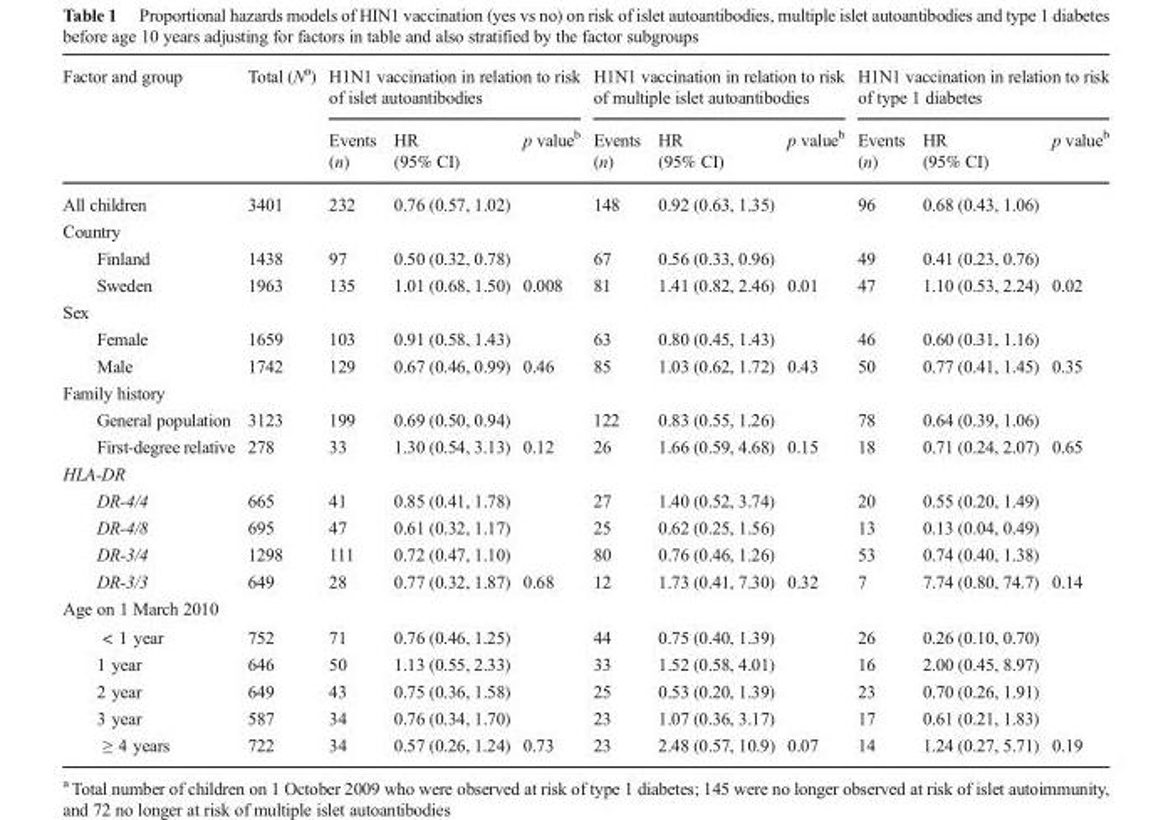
<table><thead><tr><td rowspan="2">Factor and group</td><td rowspan="2">Total (N<sup>a</sup>)</td><td colspan="3">H1N1 vaccination in relation to risk of islet autoantibodies</td><td colspan="3">H1N1 vaccination in relation to risk of multiple islet autoantibodies</td><td colspan="3">H1N1 vaccination in relation to risk of type 1 diabetes</td></tr><tr><td>Events (n)</td><td>HR (95% CI)</td><td>p value<sup>b</sup></td><td>Events (n)</td><td>HR (95% CI)</td><td>p value<sup>b</sup></td><td>Events (n)</td><td>HR (95% CI)</td><td>p value<sup>b</sup></td></tr></thead><tbody><tr><td>All children</td><td>3401</td><td>232</td><td>0.76 (0.57, 1.02)</td><td></td><td>148</td><td>0.92 (0.63, 1.35)</td><td></td><td>96</td><td>0.68 (0.43, 1.06)</td><td></td></tr><tr><td colspan="11">Country</td></tr><tr><td>Finland</td><td>1438</td><td>97</td><td>0.50 (0.32, 0.78)</td><td></td><td>67</td><td>0.56 (0.33, 0.96)</td><td></td><td>49</td><td>0.41 (0.23, 0.76)</td><td></td></tr><tr><td>Sweden</td><td>1963</td><td>135</td><td>1.01 (0.68, 1.50)</td><td>0.008</td><td>81</td><td>1.41 (0.82, 2.46)</td><td>0.01</td><td>47</td><td>1.10 (0.53, 2.24)</td><td>0.02</td></tr><tr><td colspan="11">Sex</td></tr><tr><td>Female</td><td>1659</td><td>103</td><td>0.91 (0.58, 1.43)</td><td></td><td>63</td><td>0.80 (0.45, 1.43)</td><td></td><td>46</td><td>0.60 (0.31, 1.16)</td><td></td></tr><tr><td>Male</td><td>1742</td><td>129</td><td>0.67 (0.46, 0.99)</td><td>0.46</td><td>85</td><td>1.03 (0.62, 1.72)</td><td>0.43</td><td>50</td><td>0.77 (0.41, 1.45)</td><td>0.35</td></tr><tr><td colspan="11">Family history</td></tr><tr><td>General population</td><td>3123</td><td>199</td><td>0.69 (0.50, 0.94)</td><td></td><td>122</td><td>0.83 (0.55, 1.26)</td><td></td><td>78</td><td>0.64 (0.39, 1.06)</td><td></td></tr><tr><td>First-degree relative</td><td>278</td><td>33</td><td>1.30 (0.54, 3.13)</td><td>0.12</td><td>26</td><td>1.66 (0.59, 4.68)</td><td>0.15</td><td>18</td><td>0.71 (0.24, 2.07)</td><td>0.65</td></tr><tr><td colspan="11">HLA-DR</td></tr><tr><td>DR-4/4</td><td>665</td><td>41</td><td>0.85 (0.41, 1.78)</td><td></td><td>27</td><td>1.40 (0.52, 3.74)</td><td></td><td>20</td><td>0.55 (0.20, 1.49)</td><td></td></tr><tr><td>DR-4/8</td><td>695</td><td>47</td><td>0.61 (0.32, 1.17)</td><td></td><td>25</td><td>0.62 (0.25, 1.56)</td><td></td><td>13</td><td>0.13 (0.04, 0.49)</td><td></td></tr><tr><td>DR-3/4</td><td>1298</td><td>111</td><td>0.72 (0.47, 1.10)</td><td></td><td>80</td><td>0.76 (0.46, 1.26)</td><td></td><td>53</td><td>0.74 (0.40, 1.38)</td><td></td></tr><tr><td>DR-3/3</td><td>649</td><td>28</td><td>0.77 (0.32, 1.87)</td><td>0.68</td><td>12</td><td>1.73 (0.41, 7.30)</td><td>0.32</td><td>7</td><td>7.74 (0.80, 74.7)</td><td>0.14</td></tr><tr><td colspan="11">Age on 1 March 2010</td></tr><tr><td>&lt; 1 year</td><td>752</td><td>71</td><td>0.76 (0.46, 1.25)</td><td></td><td>44</td><td>0.75 (0.40, 1.39)</td><td></td><td>26</td><td>0.26 (0.10, 0.70)</td><td></td></tr><tr><td>1 year</td><td>646</td><td>50</td><td>1.13 (0.55, 2.33)</td><td></td><td>33</td><td>1.52 (0.58, 4.01)</td><td></td><td>16</td><td>2.00 (0.45, 8.97)</td><td></td></tr><tr><td>2 year</td><td>649</td><td>43</td><td>0.75 (0.36, 1.58)</td><td></td><td>25</td><td>0.53 (0.20, 1.39)</td><td></td><td>23</td><td>0.70 (0.26, 1.91)</td><td></td></tr><tr><td>3 year</td><td>587</td><td>34</td><td>0.76 (0.34, 1.70)</td><td></td><td>23</td><td>1.07 (0.36, 3.17)</td><td></td><td>17</td><td>0.61 (0.21, 1.83)</td><td></td></tr><tr><td>≥ 4 years</td><td>722</td><td>34</td><td>0.57 (0.26, 1.24)</td><td>0.73</td><td>23</td><td>2.48 (0.57, 10.9)</td><td>0.07</td><td>14</td><td>1.24 (0.27, 5.71)</td><td>0.19</td></tr></tbody></table>